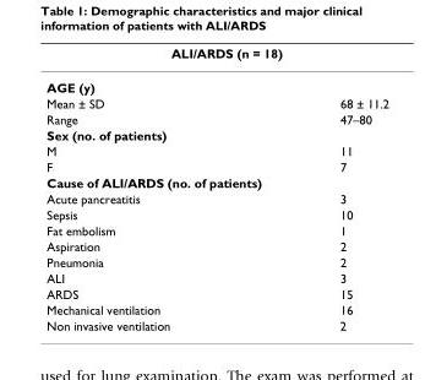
<table><thead><tr><td colspan="2">ALI/ARDS (n = 18)</td></tr><tr><td>AGE (y)</td><td></td></tr></thead><tbody><tr><td>Mean ± SD</td><td>68 ± 11.2</td></tr><tr><td>Range</td><td>47–80</td></tr><tr><td colspan="2">Sex (no. of patients)</td></tr><tr><td>M</td><td>11</td></tr><tr><td>F</td><td>7</td></tr><tr><td colspan="2">Cause of ALI/ARDS (no. of patients)</td></tr><tr><td>Acute pancreatitis</td><td>3</td></tr><tr><td>Sepsis</td><td>10</td></tr><tr><td>Fat embolism</td><td>1</td></tr><tr><td>Aspiration</td><td>2</td></tr><tr><td>Pneumonia</td><td>2</td></tr><tr><td>ALI</td><td>3</td></tr><tr><td>ARDS</td><td>15</td></tr><tr><td>Mechanical ventilation</td><td>16</td></tr><tr><td>Non invasive ventilation</td><td>2</td></tr></tbody></table>